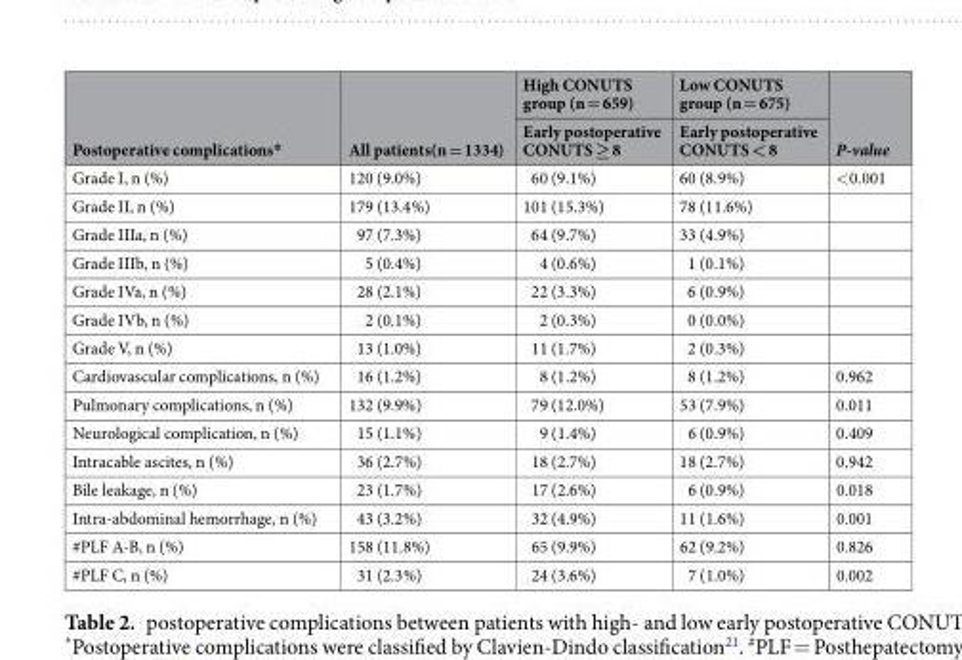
<table><thead><tr><td rowspan="2">Postoperative complications*</td><td rowspan="2">All patients(n = 1334)</td><td rowspan="2">High CONUTS group (n = 659) Early postoperative CONUTS ≥ 8</td><td rowspan="2">Low CONUTS group (n = 675) Early postoperative CONUTS &lt; 8</td><td rowspan="2">P-value</td></tr><tr></tr></thead><tbody><tr><td>Grade I, n (%)</td><td>120 (9.0%)</td><td>60 (9.1%)</td><td>60 (8.9%)</td><td>&lt;0.001</td></tr><tr><td>Grade II, n (%)</td><td>179 (13.4%)</td><td>101 (15.3%)</td><td>78 (11.6%)</td><td></td></tr><tr><td>Grade IIIa, n (%)</td><td>97 (7.3%)</td><td>64 (9.7%)</td><td>33 (4.9%)</td><td></td></tr><tr><td>Grade IIIb, n (%)</td><td>5 (0.4%)</td><td>4 (0.6%)</td><td>1 (0.1%)</td><td></td></tr><tr><td>Grade IVa, n (%)</td><td>28 (2.1%)</td><td>22 (3.3%)</td><td>6 (0.9%)</td><td></td></tr><tr><td>Grade IVb, n (%)</td><td>2 (0.1%)</td><td>2 (0.3%)</td><td>0 (0.0%)</td><td></td></tr><tr><td>Grade V, n (%)</td><td>13 (1.0%)</td><td>11 (1.7%)</td><td>2 (0.3%)</td><td></td></tr><tr><td>Cardiovascular complications, n (%)</td><td>16 (1.2%)</td><td>8 (1.2%)</td><td>8 (1.2%)</td><td>0.962</td></tr><tr><td>Pulmonary complications, n (%)</td><td>132 (9.9%)</td><td>79 (12.0%)</td><td>53 (7.9%)</td><td>0.011</td></tr><tr><td>Neurological complication, n (%)</td><td>15 (1.1%)</td><td>9 (1.4%)</td><td>6 (0.9%)</td><td>0.409</td></tr><tr><td>Intracable ascites, n (%)</td><td>36 (2.7%)</td><td>18 (2.7%)</td><td>18 (2.7%)</td><td>0.942</td></tr><tr><td>Bile leakage, n (%)</td><td>23 (1.7%)</td><td>17 (2.6%)</td><td>6 (0.9%)</td><td>0.018</td></tr><tr><td>Intra-abdominal hemorrhage, n (%)</td><td>43 (3.2%)</td><td>32 (4.9%)</td><td>11 (1.6%)</td><td>0.001</td></tr><tr><td>#PLF A-B, n (%)</td><td>158 (11.8%)</td><td>65 (9.9%)</td><td>62 (9.2%)</td><td>0.826</td></tr><tr><td>#PLF C, n (%)</td><td>31 (2.3%)</td><td>24 (3.6%)</td><td>7 (1.0%)</td><td>0.002</td></tr></tbody></table>